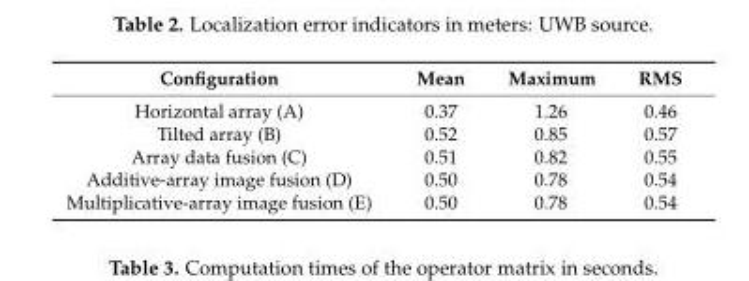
<table><thead><tr><td>Configuration</td><td>Mean</td><td>Maximum</td><td>RMS</td></tr></thead><tbody><tr><td>Horizontal array (A)</td><td>0.37</td><td>1.26</td><td>0.46</td></tr><tr><td>Tilted array (B)</td><td>0.52</td><td>0.85</td><td>0.57</td></tr><tr><td>Array data fusion (C)</td><td>0.51</td><td>0.82</td><td>0.55</td></tr><tr><td>Additive-array image fusion (D)</td><td>0.50</td><td>0.78</td><td>0.54</td></tr><tr><td>Multiplicative-array image fusion (E)</td><td>0.50</td><td>0.78</td><td>0.54</td></tr></tbody></table>